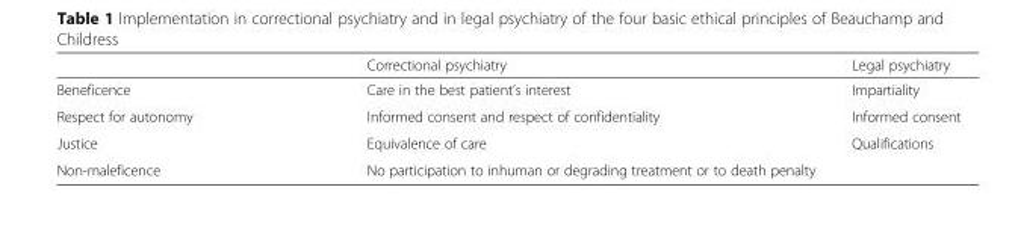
<table><thead><tr><td></td><td>Correctional psychiatry</td><td>Legal psychiatry</td></tr></thead><tbody><tr><td>Beneficence</td><td>Care in the best patient’s interest</td><td>Impartiality</td></tr><tr><td>Respect for autonomy</td><td>Informed consent and respect of confidentiality</td><td>Informed consent</td></tr><tr><td>Justice</td><td>Equivalence of care</td><td>Qualifications</td></tr><tr><td>Non-maleficence</td><td colspan="2">No participation to inhuman or degrading treatment or to death penalty</td></tr></tbody></table>